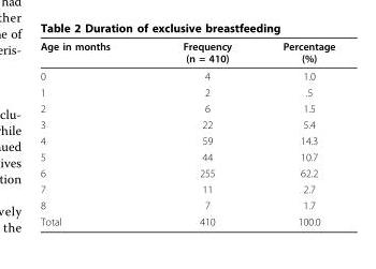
<table><thead><tr><td>Age in months</td><td>Frequency (n = 410)</td><td>Percentage (%)</td></tr></thead><tbody><tr><td>0</td><td>4</td><td>1.0</td></tr><tr><td>1</td><td>2</td><td>.5</td></tr><tr><td>2</td><td>6</td><td>1.5</td></tr><tr><td>3</td><td>22</td><td>5.4</td></tr><tr><td>4</td><td>59</td><td>14.3</td></tr><tr><td>5</td><td>44</td><td>10.7</td></tr><tr><td>6</td><td>255</td><td>62.2</td></tr><tr><td>7</td><td>11</td><td>2.7</td></tr><tr><td>8</td><td>7</td><td>1.7</td></tr><tr><td>Total</td><td>410</td><td>100.0</td></tr></tbody></table>